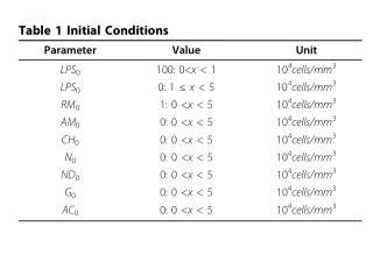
<table><thead><tr><td>Parameter</td><td>Value</td><td>Unit</td></tr></thead><tbody><tr><td>LPS<sub>0</sub></td><td>100: 0&lt;x &lt; 1</td><td>10<sup>4</sup>cells/mm<sup>3</sup></td></tr><tr><td>LPS<sub>0</sub></td><td>0: 1 ≤ x &lt; 5</td><td>10<sup>4</sup>cells/mm<sup>3</sup></td></tr><tr><td>RM<sub>0</sub></td><td>1: 0 &lt;x &lt; 5</td><td>10<sup>4</sup>cells/mm<sup>3</sup></td></tr><tr><td>AM<sub>0</sub></td><td>0: 0 &lt;x &lt; 5</td><td>10<sup>4</sup>cells/mm<sup>3</sup></td></tr><tr><td>CH<sub>0</sub></td><td>0: 0 &lt;x &lt; 5</td><td>10<sup>4</sup>cells/mm<sup>3</sup></td></tr><tr><td>N<sub>0</sub></td><td>0: 0 &lt;x &lt; 5</td><td>10<sup>4</sup>cells/mm<sup>3</sup></td></tr><tr><td>ND<sub>0</sub></td><td>0: 0 &lt;x &lt; 5</td><td>10<sup>4</sup>cells/mm<sup>3</sup></td></tr><tr><td>G<sub>0</sub></td><td>0: 0 &lt;x &lt; 5</td><td>10<sup>4</sup>cells/mm<sup>3</sup></td></tr><tr><td>AC<sub>0</sub></td><td>0: 0 &lt;x &lt; 5</td><td>10<sup>4</sup>cells/mm<sup>3</sup></td></tr></tbody></table>